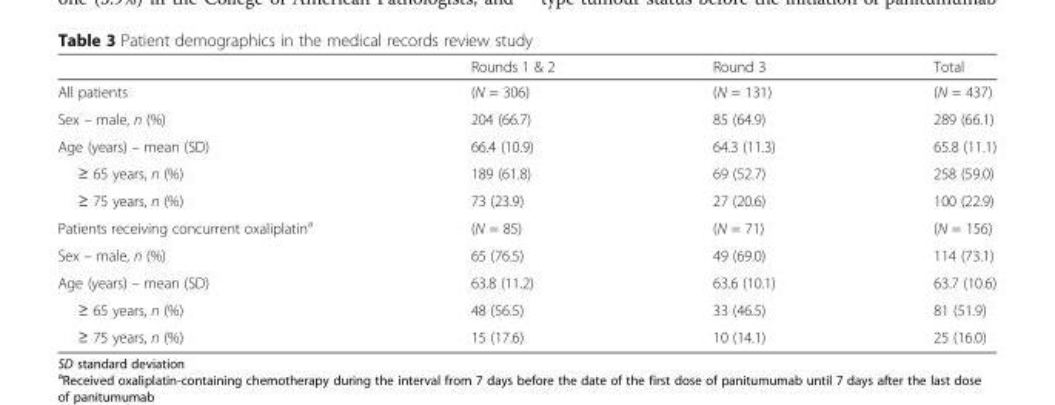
<table><thead><tr><td></td><td>Rounds 1 &amp; 2</td><td>Round 3</td><td>Total</td></tr></thead><tbody><tr><td>All patients</td><td>(N = 306)</td><td>(N = 131)</td><td>(N = 437)</td></tr><tr><td>Sex – male, n (%)</td><td>204 (66.7)</td><td>85 (64.9)</td><td>289 (66.1)</td></tr><tr><td>Age (years) – mean (SD)</td><td>66.4 (10.9)</td><td>64.3 (11.3)</td><td>65.8 (11.1)</td></tr><tr><td>≥ 65 years, n (%)</td><td>189 (61.8)</td><td>69 (52.7)</td><td>258 (59.0)</td></tr><tr><td>≥ 75 years, n (%)</td><td>73 (23.9)</td><td>27 (20.6)</td><td>100 (22.9)</td></tr><tr><td>Patients receiving concurrent oxaliplatin<sup>a</sup></td><td>(N = 85)</td><td>(N = 71)</td><td>(N = 156)</td></tr><tr><td>Sex – male, n (%)</td><td>65 (76.5)</td><td>49 (69.0)</td><td>114 (73.1)</td></tr><tr><td>Age (years) – mean (SD)</td><td>63.8 (11.2)</td><td>63.6 (10.1)</td><td>63.7 (10.6)</td></tr><tr><td>≥ 65 years, n (%)</td><td>48 (56.5)</td><td>33 (46.5)</td><td>81 (51.9)</td></tr><tr><td>≥ 75 years, n (%)</td><td>15 (17.6)</td><td>10 (14.1)</td><td>25 (16.0)</td></tr></tbody></table>